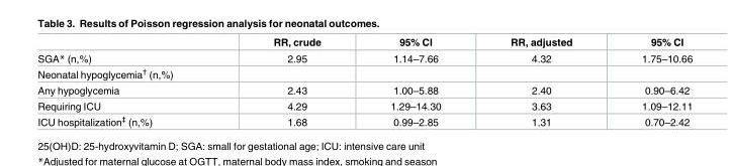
<table><thead><tr><td></td><td>RR, crude</td><td>95% CI</td><td>RR, adjusted</td><td>95% CI</td></tr></thead><tbody><tr><td>SGA* (n,%)</td><td>2.95</td><td>1.14–7.66</td><td>4.32</td><td>1.75–10.66</td></tr><tr><td colspan="5">Neonatal hypoglycemia<sup>†</sup> (n,%)</td></tr><tr><td>Any hypoglycemia</td><td>2.43</td><td>1.00–5.88</td><td>2.40</td><td>0.90–6.42</td></tr><tr><td>Requiring ICU</td><td>4.29</td><td>1.29–14.30</td><td>3.63</td><td>1.09–12.11</td></tr><tr><td>ICU hospitalization<sup>‡</sup> (n,%)</td><td>1.68</td><td>0.99–2.85</td><td>1.31</td><td>0.70–2.42</td></tr></tbody></table>